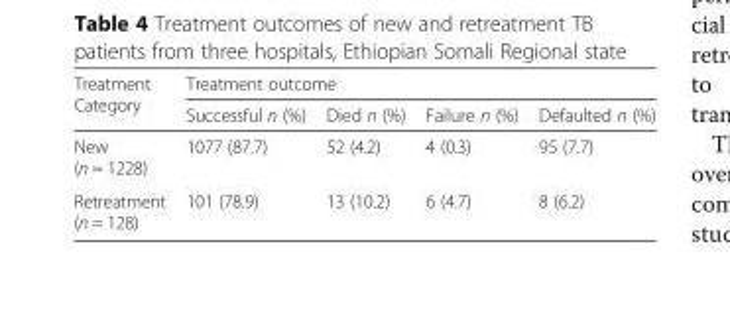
<table><thead><tr><td rowspan="2">Treatment Category</td><td colspan="4">Treatment outcome</td></tr><tr><td>Successful n (%)</td><td>Died n (%)</td><td>Failure n (%)</td><td>Defaulted n (%)</td></tr></thead><tbody><tr><td>New (n = 1228)</td><td>1077 (87.7)</td><td>52 (4.2)</td><td>4 (0.3)</td><td>95 (7.7)</td></tr><tr><td>Retreatment (n = 128)</td><td>101 (78.9)</td><td>13 (10.2)</td><td>6 (4.7)</td><td>8 (6.2)</td></tr></tbody></table>